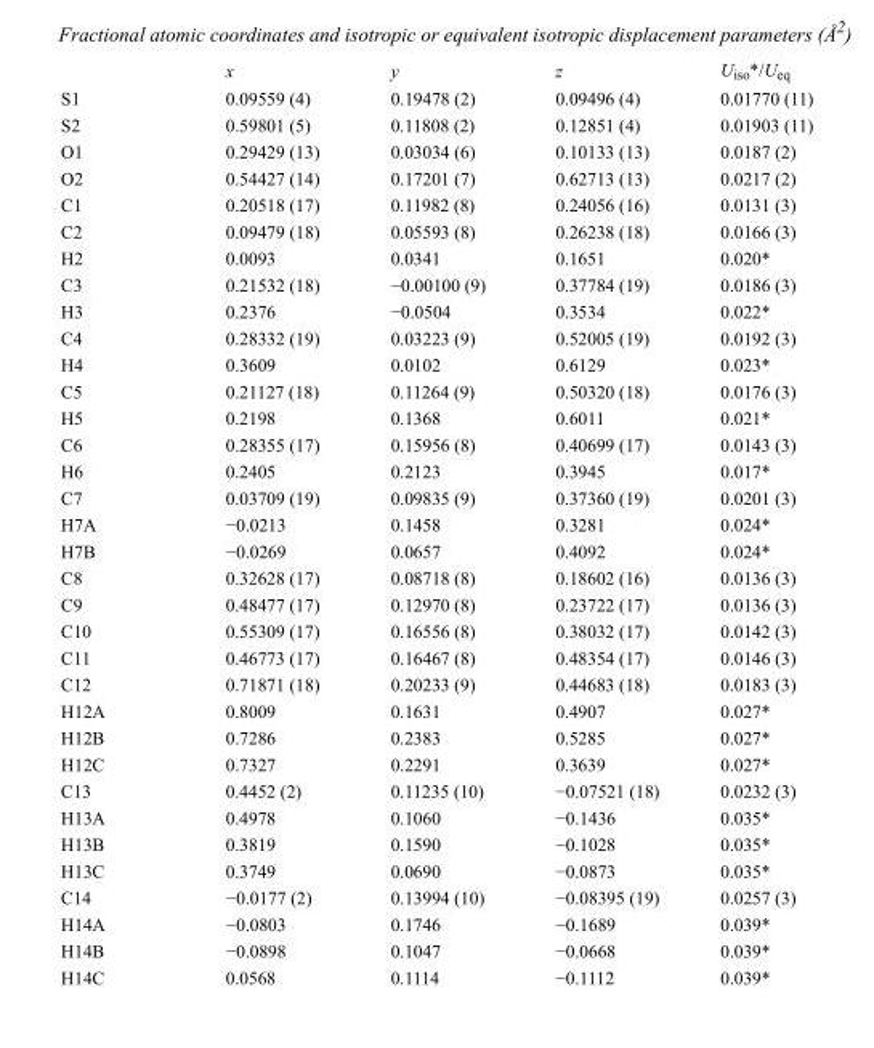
<table><thead><tr><td></td><td>x</td><td>y</td><td>z</td><td>U<sub>iso</sub>*/U<sub>eq</sub></td></tr></thead><tbody><tr><td>S1</td><td>0.09559 (4)</td><td>0.19478 (2)</td><td>0.09496 (4)</td><td>0.01770 (11)</td></tr><tr><td>S2</td><td>0.59801 (5)</td><td>0.11808 (2)</td><td>0.12851 (4)</td><td>0.01903 (11)</td></tr><tr><td>O1</td><td>0.29429 (13)</td><td>0.03034 (6)</td><td>0.10133 (13)</td><td>0.0187 (2)</td></tr><tr><td>O2</td><td>0.54427 (14)</td><td>0.17201 (7)</td><td>0.62713 (13)</td><td>0.0217 (2)</td></tr><tr><td>C1</td><td>0.20518 (17)</td><td>0.11982 (8)</td><td>0.24056 (16)</td><td>0.0131 (3)</td></tr><tr><td>C2</td><td>0.09479 (18)</td><td>0.05593 (8)</td><td>0.26238 (18)</td><td>0.0166 (3)</td></tr><tr><td>H2</td><td>0.0093</td><td>0.0341</td><td>0.1651</td><td>0.020*</td></tr><tr><td>C3</td><td>0.21532 (18)</td><td>−0.00100 (9)</td><td>0.37784 (19)</td><td>0.0186 (3)</td></tr><tr><td>H3</td><td>0.2376</td><td>−0.0504</td><td>0.3534</td><td>0.022*</td></tr><tr><td>C4</td><td>0.28332 (19)</td><td>0.03223 (9)</td><td>0.52005 (19)</td><td>0.0192 (3)</td></tr><tr><td>H4</td><td>0.3609</td><td>0.0102</td><td>0.6129</td><td>0.023*</td></tr><tr><td>C5</td><td>0.21127 (18)</td><td>0.11264 (9)</td><td>0.50320 (18)</td><td>0.0176 (3)</td></tr><tr><td>H5</td><td>0.2198</td><td>0.1368</td><td>0.6011</td><td>0.021*</td></tr><tr><td>C6</td><td>0.28355 (17)</td><td>0.15956 (8)</td><td>0.40699 (17)</td><td>0.0143 (3)</td></tr><tr><td>H6</td><td>0.2405</td><td>0.2123</td><td>0.3945</td><td>0.017*</td></tr><tr><td>C7</td><td>0.03709 (19)</td><td>0.09835 (9)</td><td>0.37360 (19)</td><td>0.0201 (3)</td></tr><tr><td>H7A</td><td>−0.0213</td><td>0.1458</td><td>0.3281</td><td>0.024*</td></tr><tr><td>H7B</td><td>−0.0269</td><td>0.0657</td><td>0.4092</td><td>0.024*</td></tr><tr><td>C8</td><td>0.32628 (17)</td><td>0.08718 (8)</td><td>0.18602 (16)</td><td>0.0136 (3)</td></tr><tr><td>C9</td><td>0.48477 (17)</td><td>0.12970 (8)</td><td>0.23722 (17)</td><td>0.0136 (3)</td></tr><tr><td>C10</td><td>0.55309 (17)</td><td>0.16556 (8)</td><td>0.38032 (17)</td><td>0.0142 (3)</td></tr><tr><td>C11</td><td>0.46773 (17)</td><td>0.16467 (8)</td><td>0.48354 (17)</td><td>0.0146 (3)</td></tr><tr><td>C12</td><td>0.71871 (18)</td><td>0.20233 (9)</td><td>0.44683 (18)</td><td>0.0183 (3)</td></tr><tr><td>H12A</td><td>0.8009</td><td>0.1631</td><td>0.4907</td><td>0.027*</td></tr><tr><td>H12B</td><td>0.7286</td><td>0.2383</td><td>0.5285</td><td>0.027*</td></tr><tr><td>H12C</td><td>0.7327</td><td>0.2291</td><td>0.3639</td><td>0.027*</td></tr><tr><td>C13</td><td>0.4452 (2)</td><td>0.11235 (10)</td><td>−0.07521 (18)</td><td>0.0232 (3)</td></tr><tr><td>H13A</td><td>0.4978</td><td>0.1060</td><td>−0.1436</td><td>0.035*</td></tr><tr><td>H13B</td><td>0.3819</td><td>0.1590</td><td>−0.1028</td><td>0.035*</td></tr><tr><td>H13C</td><td>0.3749</td><td>0.0690</td><td>−0.0873</td><td>0.035*</td></tr><tr><td>C14</td><td>−0.0177 (2)</td><td>0.13994 (10)</td><td>−0.08395 (19)</td><td>0.0257 (3)</td></tr><tr><td>H14A</td><td>−0.0803</td><td>0.1746</td><td>−0.1689</td><td>0.039*</td></tr><tr><td>H14B</td><td>−0.0898</td><td>0.1047</td><td>−0.0668</td><td>0.039*</td></tr><tr><td>H14C</td><td>0.0568</td><td>0.1114</td><td>−0.1112</td><td>0.039*</td></tr></tbody></table>